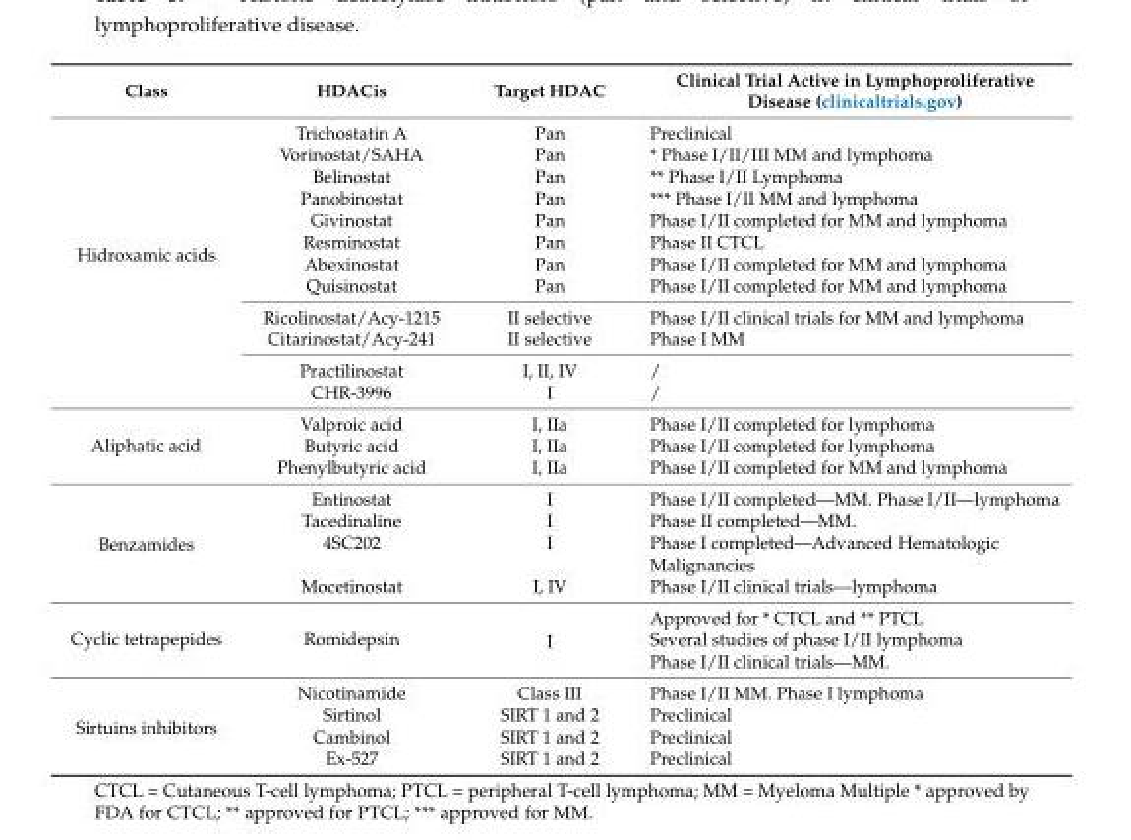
<table><thead><tr><td>Class</td><td>HDACis</td><td>Target HDAC</td><td>Clinical Trial Active in Lymphoproliferative Disease (clinicaltrials.gov)</td></tr></thead><tbody><tr><td rowspan="12">Hidroxamic acids</td><td>Trichostatin A</td><td>Pan</td><td>Preclinical</td></tr><tr><td>Vorinostat/SAHA</td><td>Pan</td><td>* Phase I/II/III MM and lymphoma</td></tr><tr><td>Belinostat</td><td>Pan</td><td>** Phase I/II Lymphoma</td></tr><tr><td>Panobinostat</td><td>Pan</td><td>*** Phase I/II MM and lymphoma</td></tr><tr><td>Givinostat</td><td>Pan</td><td>Phase I/II completed for MM and lymphoma</td></tr><tr><td>Resminostat</td><td>Pan</td><td>Phase II CTCL</td></tr><tr><td>Abexinostat</td><td>Pan</td><td>Phase I/II completed for MM and lymphoma</td></tr><tr><td>Quisinostat</td><td>Pan</td><td>Phase I/II completed for MM and lymphoma</td></tr><tr><td>Ricolinostat/Acy-1215</td><td>II selective</td><td>Phase I/II clinical trials for MM and lymphoma</td></tr><tr><td>Citarinostat/Acy-241</td><td>II selective</td><td>Phase I MM</td></tr><tr><td>Practilinostat</td><td>I, II, IV</td><td>/</td></tr><tr><td>CHR-3996</td><td>I</td><td>/</td></tr><tr><td rowspan="3">Aliphatic acid</td><td>Valproic acid</td><td>I, IIa</td><td>Phase I/II completed for lymphoma</td></tr><tr><td>Butyric acid</td><td>I, IIa</td><td>Phase I/II completed for lymphoma</td></tr><tr><td>Phenylbutyric acid</td><td>I, IIa</td><td>Phase I/II completed for MM and lymphoma</td></tr><tr><td rowspan="5">Benzamides</td><td>Entinostat</td><td>I</td><td>Phase I/II completed—MM. Phase I/II—lymphoma</td></tr><tr><td>Tacedinaline</td><td>I</td><td>Phase II completed—MM.</td></tr><tr><td>4SC202</td><td>I</td><td>Phase I completed—Advanced Hematologic</td></tr><tr><td></td><td></td><td>Malignancies</td></tr><tr><td>Mocetinostat</td><td>I, IV</td><td>Phase I/II clinical trials—lymphoma</td></tr><tr><td rowspan="3">Cyclic tetrapepides</td><td rowspan="3">Romidepsin</td><td rowspan="3">I</td><td>Approved for * CTCL and ** PTCL</td></tr><tr><td>Several studies of phase I/II lymphoma</td></tr><tr><td>Phase I/II clinical trials—MM.</td></tr><tr><td rowspan="4">Sirtuins inhibitors</td><td>Nicotinamide</td><td>Class III</td><td>Phase I/II MM. Phase I lymphoma</td></tr><tr><td>Sirtinol</td><td>SIRT 1 and 2</td><td>Preclinical</td></tr><tr><td>Cambinol</td><td>SIRT 1 and 2</td><td>Preclinical</td></tr><tr><td>Ex-527</td><td>SIRT 1 and 2</td><td>Preclinical</td></tr></tbody></table>